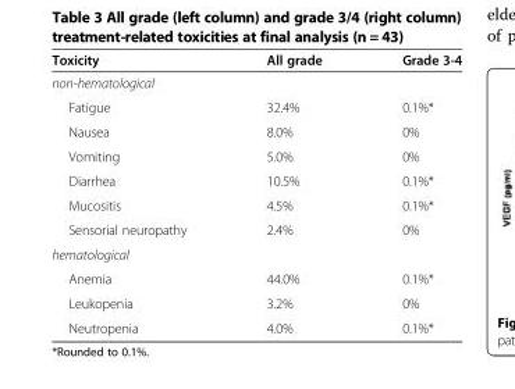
<table><thead><tr><td>Toxicity</td><td>All grade</td><td>Grade 3-4</td></tr></thead><tbody><tr><td colspan="3">non-hematological</td></tr><tr><td>Fatigue</td><td>32.4%</td><td>0.1%*</td></tr><tr><td>Nausea</td><td>8.0%</td><td>0%</td></tr><tr><td>Vomiting</td><td>5.0%</td><td>0%</td></tr><tr><td>Diarrhea</td><td>10.5%</td><td>0.1%*</td></tr><tr><td>Mucositis</td><td>4.5%</td><td>0.1%*</td></tr><tr><td>Sensorial neuropathy</td><td>2.4%</td><td>0%</td></tr><tr><td colspan="3">hematological</td></tr><tr><td>Anemia</td><td>44.0%</td><td>0.1%*</td></tr><tr><td>Leukopenia</td><td>3.2%</td><td>0%</td></tr><tr><td>Neutropenia</td><td>4.0%</td><td>0.1%*</td></tr></tbody></table>